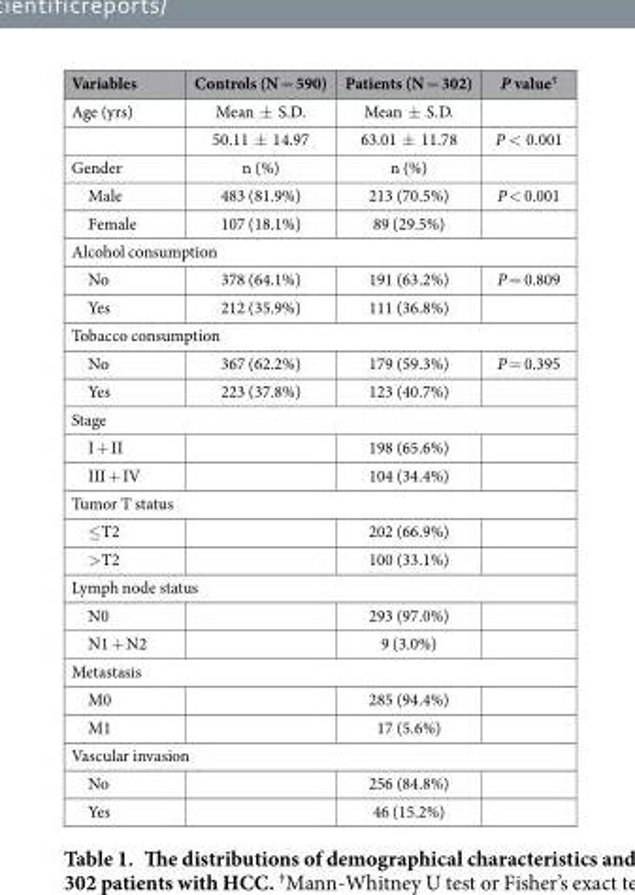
<table><thead><tr><td>Variables</td><td>Controls (N = 590)</td><td>Patients (N = 302)</td><td>P value<sup>†</sup></td></tr></thead><tbody><tr><td rowspan="2">Age (yrs)</td><td>Mean ± S.D.</td><td>Mean ± S.D.</td><td></td></tr><tr><td>50.11 ± 14.97</td><td>63.01 ± 11.78</td><td>P &lt; 0.001</td></tr><tr><td>Gender</td><td>n (%)</td><td>n (%)</td><td></td></tr><tr><td>Male</td><td>483 (81.9%)</td><td>213 (70.5%)</td><td>P &lt; 0.001</td></tr><tr><td>Female</td><td>107 (18.1%)</td><td>89 (29.5%)</td><td></td></tr><tr><td colspan="4">Alcohol consumption</td></tr><tr><td>No</td><td>378 (64.1%)</td><td>191 (63.2%)</td><td>P = 0.809</td></tr><tr><td>Yes</td><td>212 (35.9%)</td><td>111 (36.8%)</td><td></td></tr><tr><td colspan="4">Tobacco consumption</td></tr><tr><td>No</td><td>367 (62.2%)</td><td>179 (59.3%)</td><td>P = 0.395</td></tr><tr><td>Yes</td><td>223 (37.8%)</td><td>123 (40.7%)</td><td></td></tr><tr><td colspan="4">Stage</td></tr><tr><td>I + II</td><td></td><td>198 (65.6%)</td><td></td></tr><tr><td>III + IV</td><td></td><td>104 (34.4%)</td><td></td></tr><tr><td colspan="4">Tumor T status</td></tr><tr><td>≤ T2</td><td></td><td>202 (66.9%)</td><td></td></tr><tr><td>&gt; T2</td><td></td><td>100 (33.1%)</td><td></td></tr><tr><td colspan="4">Lymph node status</td></tr><tr><td>N0</td><td></td><td>293 (97.0%)</td><td></td></tr><tr><td>N1 + N2</td><td></td><td>9 (3.0%)</td><td></td></tr><tr><td colspan="4">Metastasis</td></tr><tr><td>M0</td><td></td><td>285 (94.4%)</td><td></td></tr><tr><td>M1</td><td></td><td>17 (5.6%)</td><td></td></tr><tr><td colspan="4">Vascular invasion</td></tr><tr><td>No</td><td></td><td>256 (84.8%)</td><td></td></tr><tr><td>Yes</td><td></td><td>46 (15.2%)</td><td></td></tr></tbody></table>